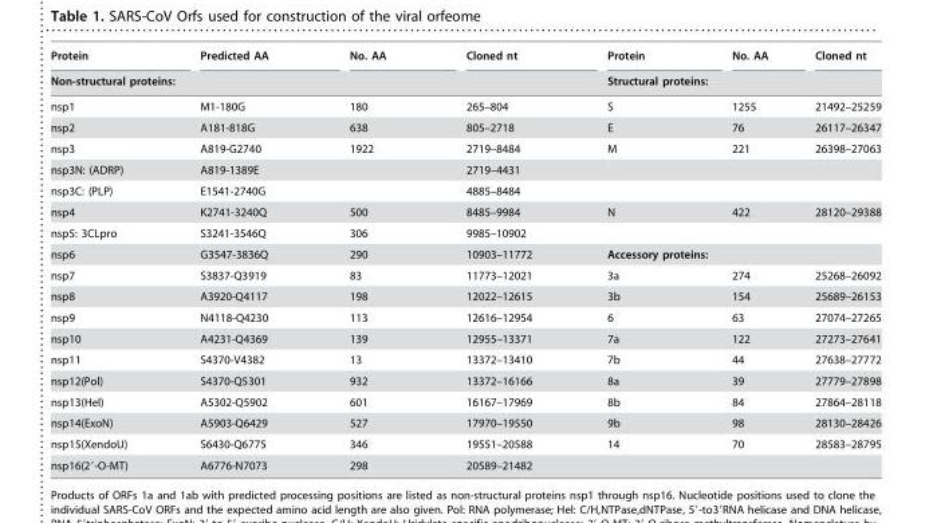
<table><thead><tr><td>Protein</td><td>Predicted AA</td><td>No. AA</td><td>Cloned nt</td><td>Protein</td><td>No. AA</td><td>Cloned nt</td></tr><tr><td colspan="4">Non-structural proteins:</td><td colspan="3">Structural proteins:</td></tr></thead><tbody><tr><td>nsp1</td><td>M1-180G</td><td>180</td><td>265–804</td><td>S</td><td>1255</td><td>21492–25259</td></tr><tr><td>nsp2</td><td>A181-818G</td><td>638</td><td>805–2718</td><td>E</td><td>76</td><td>26117–26347</td></tr><tr><td>nsp3</td><td>A819-G2740</td><td>1922</td><td>2719–8484</td><td>M</td><td>221</td><td>26398–27063</td></tr><tr><td>nsp3N: (ADRP)</td><td>A819-1389E</td><td></td><td>2719–4431</td><td></td><td></td><td></td></tr><tr><td>nsp3C: (PLP)</td><td>E1541-2740G</td><td></td><td>4885–8484</td><td></td><td></td><td></td></tr><tr><td>nsp4</td><td>K2741-3240Q</td><td>500</td><td>8485–9984</td><td>N</td><td>422</td><td>28120–29388</td></tr><tr><td>nsp5: 3CLpro</td><td>S3241-3546Q</td><td>306</td><td>9985–10902</td><td></td><td></td><td></td></tr><tr><td>nsp6</td><td>G3547-3836Q</td><td>290</td><td>10903–11772</td><td colspan="3">Accessory proteins:</td></tr><tr><td>nsp7</td><td>S3837-Q3919</td><td>83</td><td>11773–12021</td><td>3a</td><td>274</td><td>25268–26092</td></tr><tr><td>nsp8</td><td>A3920-Q4117</td><td>198</td><td>12022–12615</td><td>3b</td><td>154</td><td>25689–26153</td></tr><tr><td>nsp9</td><td>N4118-Q4230</td><td>113</td><td>12616–12954</td><td>6</td><td>63</td><td>27074–27265</td></tr><tr><td>nsp10</td><td>A4231-Q4369</td><td>139</td><td>12955–13371</td><td>7a</td><td>122</td><td>27273–27641</td></tr><tr><td>nsp11</td><td>S4370-V4382</td><td>13</td><td>13372–13410</td><td>7b</td><td>44</td><td>27638–27772</td></tr><tr><td>nsp12(Pol)</td><td>S4370-Q5301</td><td>932</td><td>13372–16166</td><td>8a</td><td>39</td><td>27779–27898</td></tr><tr><td>nsp13(Hel)</td><td>A5302-Q5902</td><td>601</td><td>16167–17969</td><td>8b</td><td>84</td><td>27864–28118</td></tr><tr><td>nsp14(ExoN)</td><td>A5903-Q6429</td><td>527</td><td>17970–19550</td><td>9b</td><td>98</td><td>28130–28426</td></tr><tr><td>nsp15(XendoU)</td><td>S6430-Q6775</td><td>346</td><td>19551–20588</td><td>14</td><td>70</td><td>28583–28795</td></tr><tr><td>nsp16(2′-O-MT)</td><td>A6776-N7073</td><td>298</td><td>20589–21482</td><td></td><td></td><td></td></tr></tbody></table>